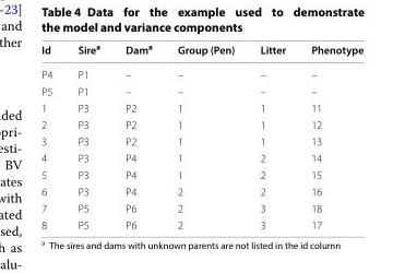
<table><thead><tr><td>Id</td><td>Sire<sup>a</sup></td><td>Dam<sup>a</sup></td><td>Group (Pen)</td><td>Litter</td><td>Phenotype</td></tr></thead><tbody><tr><td>P4</td><td>P1</td><td>–</td><td>–</td><td>–</td><td>–</td></tr><tr><td>P5</td><td>P1</td><td>–</td><td>–</td><td>–</td><td>–</td></tr><tr><td>1</td><td>P3</td><td>P2</td><td>1</td><td>1</td><td>11</td></tr><tr><td>2</td><td>P3</td><td>P2</td><td>1</td><td>1</td><td>12</td></tr><tr><td>3</td><td>P3</td><td>P2</td><td>1</td><td>1</td><td>13</td></tr><tr><td>4</td><td>P3</td><td>P4</td><td>1</td><td>2</td><td>14</td></tr><tr><td>5</td><td>P3</td><td>P4</td><td>1</td><td>2</td><td>15</td></tr><tr><td>6</td><td>P3</td><td>P4</td><td>2</td><td>2</td><td>16</td></tr><tr><td>7</td><td>P5</td><td>P6</td><td>2</td><td>3</td><td>18</td></tr><tr><td>8</td><td>P5</td><td>P6</td><td>2</td><td>3</td><td>17</td></tr></tbody></table>